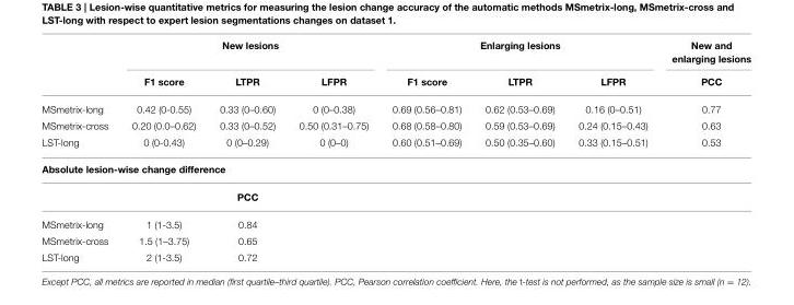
<table><thead><tr><td rowspan="2"></td><td colspan="3">New lesions</td><td colspan="3">Enlarging lesions</td><td rowspan="2">New and enlarging lesions PCC</td></tr><tr><td>F1 score</td><td>LTPR</td><td>LFPR</td><td>F1 score</td><td>LTPR</td><td>LFPR</td></tr></thead><tbody><tr><td>MSmetrix-long</td><td>0.42 (0-0.55)</td><td>0.33 (0–0.60)</td><td>0 (0–0.38)</td><td>0.69 (0.56–0.81)</td><td>0.62 (0.53–0.69)</td><td>0.16 (0–0.51)</td><td>0.77</td></tr><tr><td>MSmetrix-cross</td><td>0.20 (0.0–0.62)</td><td>0.33 (0–0.52)</td><td>0.50 (0.31–0.75)</td><td>0.68 (0.58–0.80)</td><td>0.59 (0.53–0.69)</td><td>0.24 (0.15–0.43)</td><td>0.63</td></tr><tr><td>LST-long</td><td>0 (0-0.43)</td><td>0 (0–0.29)</td><td>0 (0–0)</td><td>0.60 (0.51–0.69)</td><td>0.50 (0.35–0.60)</td><td>0.33 (0.15–0.51)</td><td>0.53</td></tr><tr><td colspan="8">Absolute lesion-wise change difference</td></tr><tr><td></td><td></td><td>PCC</td><td></td><td></td><td></td><td></td><td></td></tr><tr><td>MSmetrix-long</td><td>1 (1-3.5)</td><td>0.84</td><td></td><td></td><td></td><td></td><td></td></tr><tr><td>MSmetrix-cross</td><td>1.5 (1–3.75)</td><td>0.65</td><td></td><td></td><td></td><td></td><td></td></tr><tr><td>LST-long</td><td>2 (1-3.5)</td><td>0.72</td><td></td><td></td><td></td><td></td><td></td></tr></tbody></table>